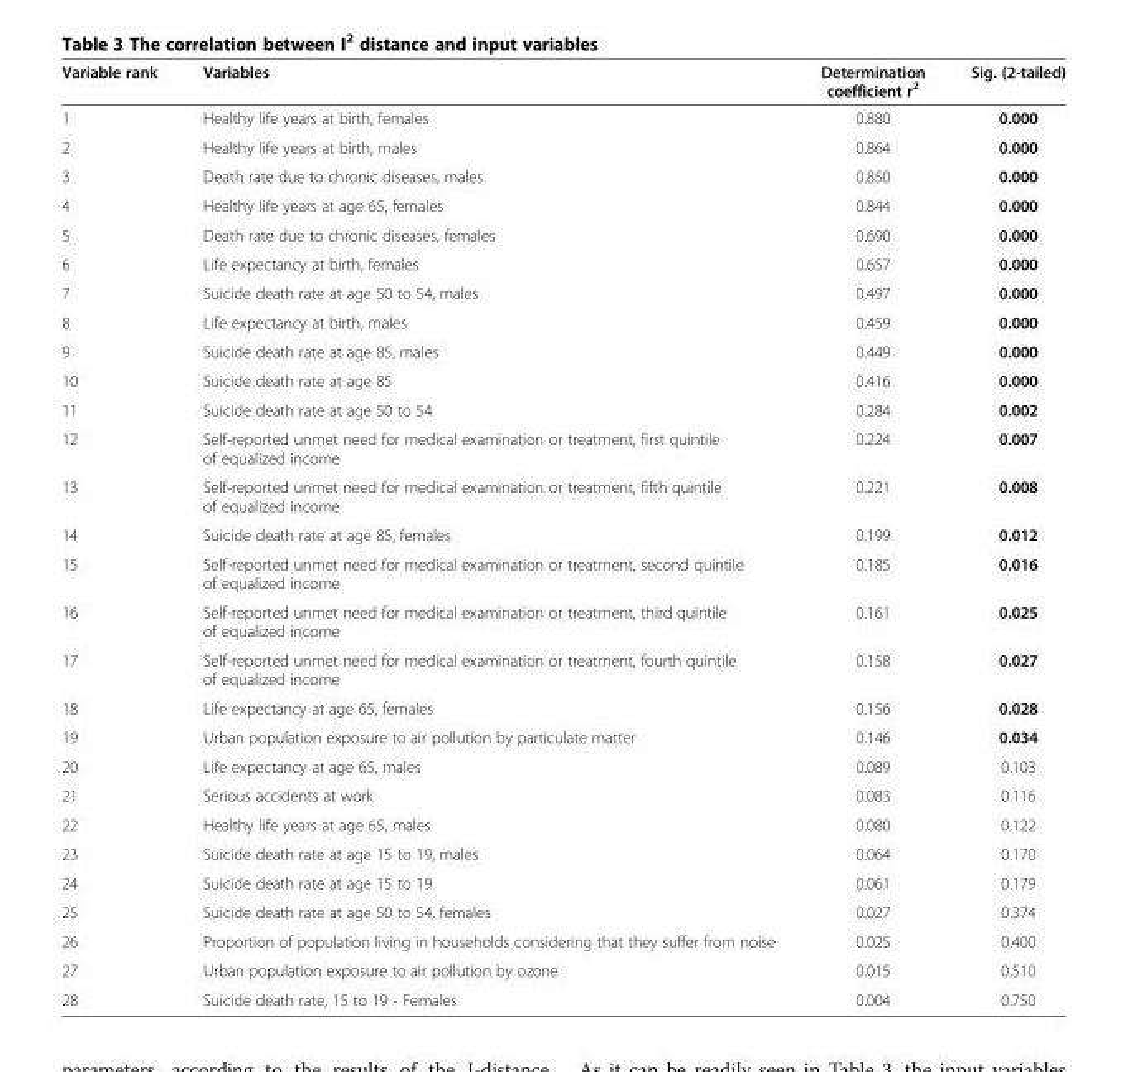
<table><thead><tr><td>Variable rank</td><td>Variables</td><td>Determination coefficient r<sup>2</sup></td><td>Sig. (2-tailed)</td></tr></thead><tbody><tr><td>1</td><td>Healthy life years at birth, females</td><td>0.880</td><td>0.000</td></tr><tr><td>2</td><td>Healthy life years at birth, males</td><td>0.864</td><td>0.000</td></tr><tr><td>3</td><td>Death rate due to chronic diseases, males</td><td>0.850</td><td>0.000</td></tr><tr><td>4</td><td>Healthy life years at age 65, females</td><td>0.844</td><td>0.000</td></tr><tr><td>5</td><td>Death rate due to chronic diseases, females</td><td>0.690</td><td>0.000</td></tr><tr><td>6</td><td>Life expectancy at birth, females</td><td>0.657</td><td>0.000</td></tr><tr><td>7</td><td>Suicide death rate at age 50 to 54, males</td><td>0.497</td><td>0.000</td></tr><tr><td>8</td><td>Life expectancy at birth, males</td><td>0.459</td><td>0.000</td></tr><tr><td>9</td><td>Suicide death rate at age 85, males</td><td>0.449</td><td>0.000</td></tr><tr><td>10</td><td>Suicide death rate at age 85</td><td>0.416</td><td>0.000</td></tr><tr><td>11</td><td>Suicide death rate at age 50 to 54</td><td>0.284</td><td>0.002</td></tr><tr><td>12</td><td>Self-reported unmet need for medical examination or treatment, first quintile of equalized income</td><td>0.224</td><td>0.007</td></tr><tr><td>13</td><td>Self-reported unmet need for medical examination or treatment, fifth quintile of equalized income</td><td>0.221</td><td>0.008</td></tr><tr><td>14</td><td>Suicide death rate at age 85, females</td><td>0.199</td><td>0.012</td></tr><tr><td>15</td><td>Self-reported unmet need for medical examination or treatment, second quintile of equalized income</td><td>0.185</td><td>0.016</td></tr><tr><td>16</td><td>Self-reported unmet need for medical examination or treatment, third quintile of equalized income</td><td>0.161</td><td>0.025</td></tr><tr><td>17</td><td>Self-reported unmet need for medical examination or treatment, fourth quintile of equalized income</td><td>0.158</td><td>0.027</td></tr><tr><td>18</td><td>Life expectancy at age 65, females</td><td>0.156</td><td>0.028</td></tr><tr><td>19</td><td>Urban population exposure to air pollution by particulate matter</td><td>0.146</td><td>0.034</td></tr><tr><td>20</td><td>Life expectancy at age 65, males</td><td>0.089</td><td>0.103</td></tr><tr><td>21</td><td>Serious accidents at work</td><td>0.083</td><td>0.116</td></tr><tr><td>22</td><td>Healthy life years at age 65, males</td><td>0.080</td><td>0.122</td></tr><tr><td>23</td><td>Suicide death rate at age 15 to 19, males</td><td>0.064</td><td>0.170</td></tr><tr><td>24</td><td>Suicide death rate at age 15 to 19</td><td>0.061</td><td>0.179</td></tr><tr><td>25</td><td>Suicide death rate at age 50 to 54, females</td><td>0.027</td><td>0.374</td></tr><tr><td>26</td><td>Proportion of population living in households considering that they suffer from noise</td><td>0.025</td><td>0.400</td></tr><tr><td>27</td><td>Urban population exposure to air pollution by ozone</td><td>0.015</td><td>0.510</td></tr><tr><td>28</td><td>Suicide death rate, 15 to 19 - Females</td><td>0.004</td><td>0.750</td></tr></tbody></table>